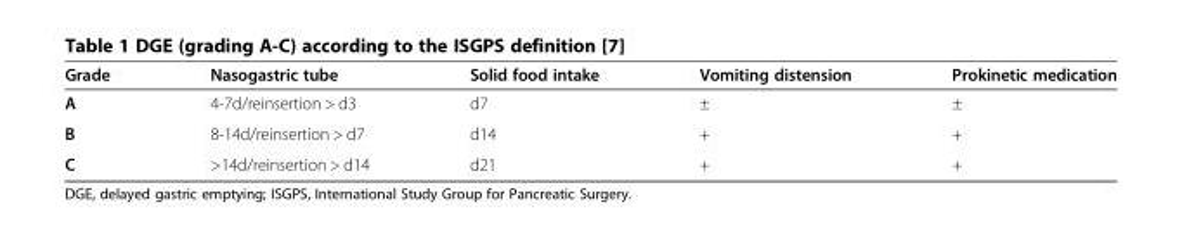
<table><thead><tr><td>Grade</td><td>Nasogastric tube</td><td>Solid food intake</td><td>Vomiting distension</td><td>Prokinetic medication</td></tr></thead><tbody><tr><td>A</td><td>4-7d/reinsertion &gt; d3</td><td>d7</td><td>±</td><td>±</td></tr><tr><td>B</td><td>8-14d/reinsertion &gt; d7</td><td>d14</td><td>+</td><td>+</td></tr><tr><td>C</td><td>&gt;14d/reinsertion &gt; d14</td><td>d21</td><td>+</td><td>+</td></tr></tbody></table>